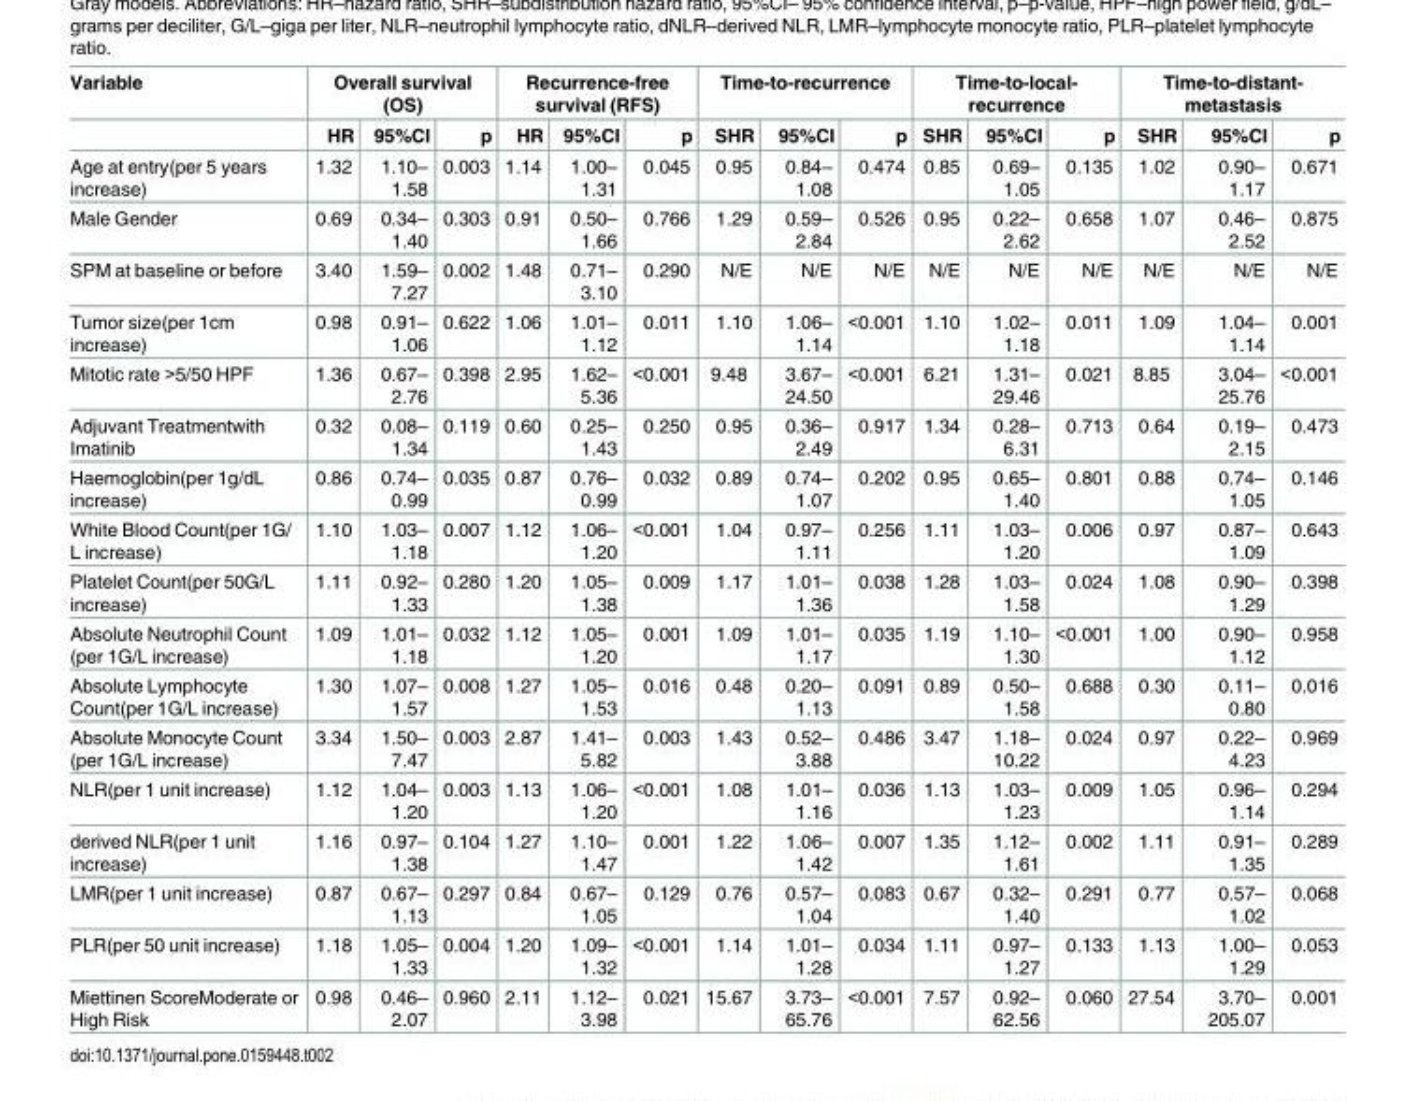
<table><thead><tr><td rowspan="2">Variable</td><td colspan="3">Overall survival (OS)</td><td colspan="3">Recurrence-free survival (RFS)</td><td colspan="3">Time-to-recurrence</td><td colspan="3">Time-to-local- recurrence</td><td colspan="3">Time-to-distant- metastasis</td></tr><tr><td>HR</td><td>95%CI</td><td>p</td><td>HR</td><td>95%CI</td><td>p</td><td>SHR</td><td>95%CI</td><td>p</td><td>SHR</td><td>95%CI</td><td>p</td><td>SHR</td><td>95%CI</td><td>p</td></tr></thead><tbody><tr><td>Age at entry(per 5 years increase)</td><td>1.32</td><td>1.10– 1.58</td><td>0.003</td><td>1.14</td><td>1.00– 1.31</td><td>0.045</td><td>0.95</td><td>0.84– 1.08</td><td>0.474</td><td>0.85</td><td>0.69– 1.05</td><td>0.135</td><td>1.02</td><td>0.90– 1.17</td><td>0.671</td></tr><tr><td>Male Gender</td><td>0.69</td><td>0.34– 1.40</td><td>0.303</td><td>0.91</td><td>0.50– 1.66</td><td>0.766</td><td>1.29</td><td>0.59– 2.84</td><td>0.526</td><td>0.95</td><td>0.22– 2.62</td><td>0.658</td><td>1.07</td><td>0.46– 2.52</td><td>0.875</td></tr><tr><td>SPM at baseline or before</td><td>3.40</td><td>1.59– 7.27</td><td>0.002</td><td>1.48</td><td>0.71– 3.10</td><td>0.290</td><td>N/E</td><td>N/E</td><td>N/E</td><td>N/E</td><td>N/E</td><td>N/E</td><td>N/E</td><td>N/E</td><td>N/E</td></tr><tr><td>Tumor size(per 1cm increase)</td><td>0.98</td><td>0.91– 1.06</td><td>0.622</td><td>1.06</td><td>1.01– 1.12</td><td>0.011</td><td>1.10</td><td>1.06– 1.14</td><td>&lt;0.001</td><td>1.10</td><td>1.02– 1.18</td><td>0.011</td><td>1.09</td><td>1.04– 1.14</td><td>0.001</td></tr><tr><td>Mitotic rate &gt;5/50 HPF</td><td>1.36</td><td>0.67– 2.76</td><td>0.398</td><td>2.95</td><td>1.62– 5.36</td><td>&lt;0.001</td><td>9.48</td><td>3.67– 24.50</td><td>&lt;0.001</td><td>6.21</td><td>1.31– 29.46</td><td>0.021</td><td>8.85</td><td>3.04– 25.76</td><td>&lt;0.001</td></tr><tr><td>Adjuvant Treatmentwith Imatinib</td><td>0.32</td><td>0.08– 1.34</td><td>0.119</td><td>0.60</td><td>0.25– 1.43</td><td>0.250</td><td>0.95</td><td>0.36– 2.49</td><td>0.917</td><td>1.34</td><td>0.28– 6.31</td><td>0.713</td><td>0.64</td><td>0.19– 2.15</td><td>0.473</td></tr><tr><td>Haemoglobin(per 1g/dL increase)</td><td>0.86</td><td>0.74– 0.99</td><td>0.035</td><td>0.87</td><td>0.76– 0.99</td><td>0.032</td><td>0.89</td><td>0.74– 1.07</td><td>0.202</td><td>0.95</td><td>0.65– 1.40</td><td>0.801</td><td>0.88</td><td>0.74– 1.05</td><td>0.146</td></tr><tr><td>White Blood Count(per 1G/ L increase)</td><td>1.10</td><td>1.03– 1.18</td><td>0.007</td><td>1.12</td><td>1.06– 1.20</td><td>&lt;0.001</td><td>1.04</td><td>0.97– 1.11</td><td>0.256</td><td>1.11</td><td>1.03– 1.20</td><td>0.006</td><td>0.97</td><td>0.87– 1.09</td><td>0.643</td></tr><tr><td>Platelet Count(per 50G/L increase)</td><td>1.11</td><td>0.92– 1.33</td><td>0.280</td><td>1.20</td><td>1.05– 1.38</td><td>0.009</td><td>1.17</td><td>1.01– 1.36</td><td>0.038</td><td>1.28</td><td>1.03– 1.58</td><td>0.024</td><td>1.08</td><td>0.90– 1.29</td><td>0.398</td></tr><tr><td>Absolute Neutrophil Count (per 1G/L increase)</td><td>1.09</td><td>1.01– 1.18</td><td>0.032</td><td>1.12</td><td>1.05– 1.20</td><td>0.001</td><td>1.09</td><td>1.01– 1.17</td><td>0.035</td><td>1.19</td><td>1.10– 1.30</td><td>&lt;0.001</td><td>1.00</td><td>0.90– 1.12</td><td>0.958</td></tr><tr><td>Absolute Lymphocyte Count(per 1G/L increase)</td><td>1.30</td><td>1.07– 1.57</td><td>0.008</td><td>1.27</td><td>1.05– 1.53</td><td>0.016</td><td>0.48</td><td>0.20– 1.13</td><td>0.091</td><td>0.89</td><td>0.50– 1.58</td><td>0.688</td><td>0.30</td><td>0.11– 0.80</td><td>0.016</td></tr><tr><td>Absolute Monocyte Count (per 1G/L increase)</td><td>3.34</td><td>1.50– 7.47</td><td>0.003</td><td>2.87</td><td>1.41– 5.82</td><td>0.003</td><td>1.43</td><td>0.52– 3.88</td><td>0.486</td><td>3.47</td><td>1.18– 10.22</td><td>0.024</td><td>0.97</td><td>0.22– 4.23</td><td>0.969</td></tr><tr><td>NLR(per 1 unit increase)</td><td>1.12</td><td>1.04– 1.20</td><td>0.003</td><td>1.13</td><td>1.06– 1.20</td><td>&lt;0.001</td><td>1.08</td><td>1.01– 1.16</td><td>0.036</td><td>1.13</td><td>1.03– 1.23</td><td>0.009</td><td>1.05</td><td>0.96– 1.14</td><td>0.294</td></tr><tr><td>derived NLR(per 1 unit increase)</td><td>1.16</td><td>0.97– 1.38</td><td>0.104</td><td>1.27</td><td>1.10– 1.47</td><td>0.001</td><td>1.22</td><td>1.06– 1.42</td><td>0.007</td><td>1.35</td><td>1.12– 1.61</td><td>0.002</td><td>1.11</td><td>0.91– 1.35</td><td>0.289</td></tr><tr><td>LMR(per 1 unit increase)</td><td>0.87</td><td>0.67– 1.13</td><td>0.297</td><td>0.84</td><td>0.67– 1.05</td><td>0.129</td><td>0.76</td><td>0.57– 1.04</td><td>0.083</td><td>0.67</td><td>0.32– 1.40</td><td>0.291</td><td>0.77</td><td>0.57– 1.02</td><td>0.068</td></tr><tr><td>PLR(per 50 unit increase)</td><td>1.18</td><td>1.05– 1.33</td><td>0.004</td><td>1.20</td><td>1.09– 1.32</td><td>&lt;0.001</td><td>1.14</td><td>1.01– 1.28</td><td>0.034</td><td>1.11</td><td>0.97– 1.27</td><td>0.133</td><td>1.13</td><td>1.00– 1.29</td><td>0.053</td></tr><tr><td>Miettinen ScoreModerate or High Risk</td><td>0.98</td><td>0.46– 2.07</td><td>0.960</td><td>2.11</td><td>1.12– 3.98</td><td>0.021</td><td>15.67</td><td>3.73– 65.76</td><td>&lt;0.001</td><td>7.57</td><td>0.92– 62.56</td><td>0.060</td><td>27.54</td><td>3.70– 205.07</td><td>0.001</td></tr></tbody></table>